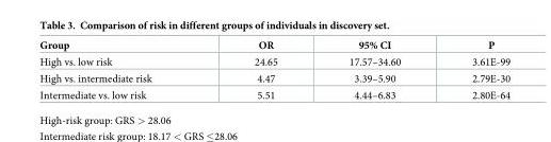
<table><thead><tr><td>Group</td><td>OR</td><td>95% CI</td><td>P</td></tr></thead><tbody><tr><td>High vs. low risk</td><td>24.65</td><td>17.57–34.60</td><td>3.61E-99</td></tr><tr><td>High vs. intermediate risk</td><td>4.47</td><td>3.39–5.90</td><td>2.79E-30</td></tr><tr><td>Intermediate vs. low risk</td><td>5.51</td><td>4.44–6.83</td><td>2.80E-64</td></tr></tbody></table>